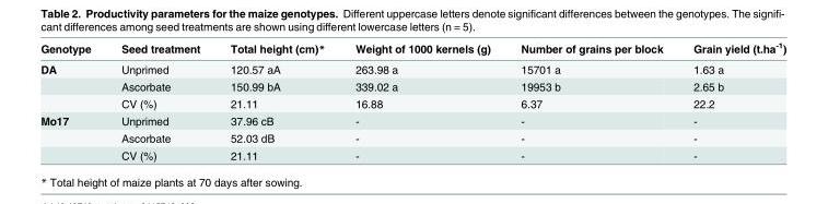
<table><thead><tr><td>Genotype</td><td>Seed treatment</td><td>Total height (cm)*</td><td>Weight of 1000 kernels (g)</td><td>Number of grains per block</td><td>Grain yield (t.ha<sup>-1</sup>)</td></tr></thead><tbody><tr><td rowspan="3">DA</td><td>Unprimed</td><td>120.57 aA</td><td>263.98 a</td><td>15701 a</td><td>1.63 a</td></tr><tr><td>Ascorbate</td><td>150.99 bA</td><td>339.02 a</td><td>19953 b</td><td>2.65 b</td></tr><tr><td>CV (%)</td><td>21.11</td><td>16.88</td><td>6.37</td><td>22.2</td></tr><tr><td rowspan="3">Mo17</td><td>Unprimed</td><td>37.96 cB</td><td>-</td><td>-</td><td>-</td></tr><tr><td>Ascorbate</td><td>52.03 dB</td><td>-</td><td>-</td><td>-</td></tr><tr><td>CV (%)</td><td>21.11</td><td>-</td><td>-</td><td>-</td></tr></tbody></table>